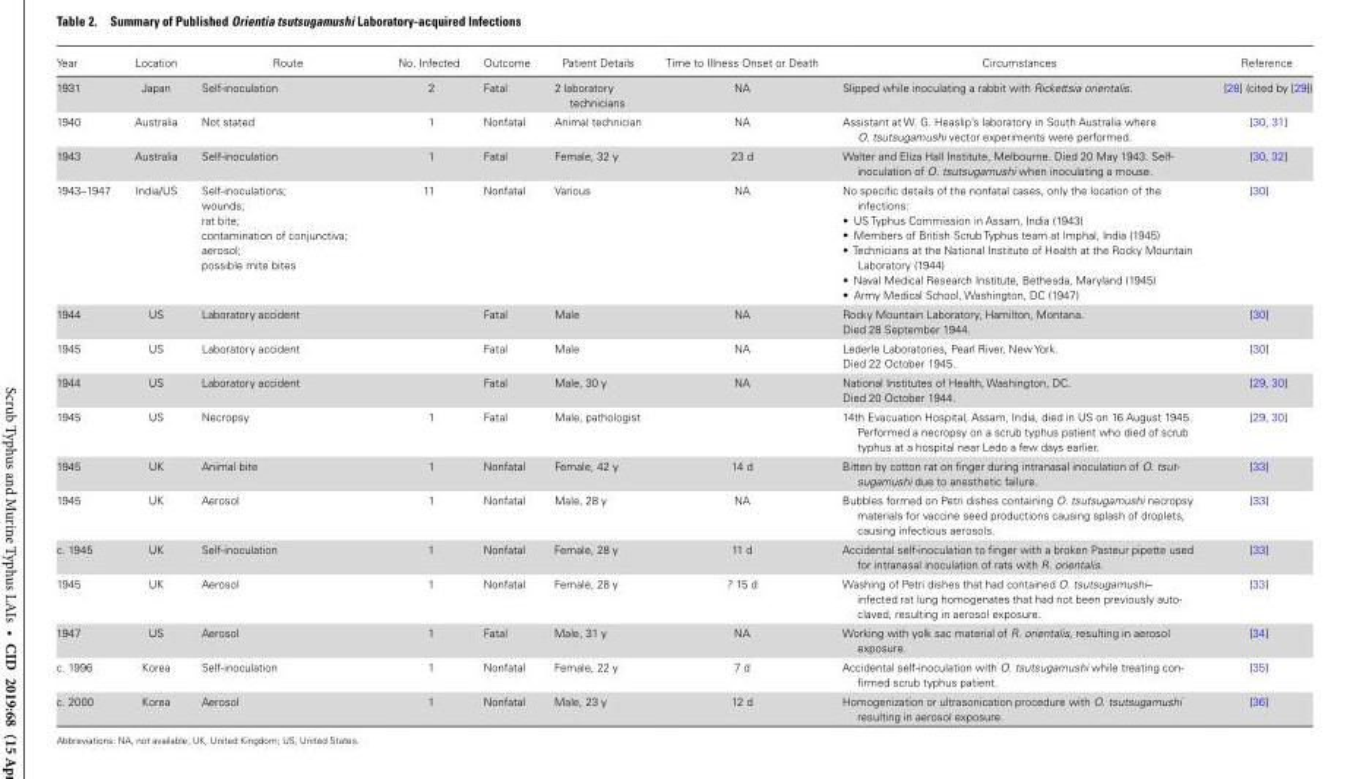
<table><thead><tr><td>Year</td><td>Location</td><td>Route</td><td>No. Infected</td><td>Outcome</td><td>Patient Details</td><td>Time to Illness Onset or Death</td><td>Circumstances</td><td>Reference</td></tr></thead><tbody><tr><td>1931</td><td>Japan</td><td>Self-inoculation</td><td>2</td><td>Fatal</td><td>2 laboratory technicians</td><td>NA</td><td>Slipped while inoculating a rabbit with Rickettsia orientalis.</td><td>[28] (cited by [29])</td></tr><tr><td>1940</td><td>Australia</td><td>Not stated</td><td>1</td><td>Nonfatal</td><td>Animal technician</td><td>NA</td><td>Assistant at W. G. Heaslip’s laboratory in South Australia where O. tsutsugamushi vector experiments were performed.</td><td>[30, 31]</td></tr><tr><td>1943</td><td>Australia</td><td>Self-inoculation</td><td>1</td><td>Fatal</td><td>Female, 32 y</td><td>23 d</td><td>Walter and Eliza Hall Institute, Melbourne. Died 20 May 1943. Self- inoculation of O. tsutsugamushi when inoculating a mouse.</td><td>[30, 32]</td></tr><tr><td>1943–1947</td><td>India/US</td><td>Self-inoculations; wounds; rat bite; contamination of conjunctiva; aerosol; possible mite bites</td><td>11</td><td>Nonfatal</td><td>Various</td><td>NA</td><td>No specific details of the nonfatal cases, only the location of the infections: • US Typhus Commission in Assam, India (1943) • Members of British Scrub Typhus team at Imphal, India (1945) • Technicians at the National Institute of Health at the Rocky Mountain Laboratory (1944) • Naval Medical Research Institute, Bethesda, Maryland (1945) • Army Medical School, Washington, DC (1947)</td><td>[30]</td></tr><tr><td>1944</td><td>US</td><td>Laboratory accident</td><td></td><td>Fatal</td><td>Male</td><td>NA</td><td>Rocky Mountain Laboratory, Hamilton, Montana. Died 28 September 1944.</td><td>[30]</td></tr><tr><td>1945</td><td>US</td><td>Laboratory accident</td><td></td><td>Fatal</td><td>Male</td><td>NA</td><td>Lederle Laboratories, Pearl River, New York. Died 22 October 1945.</td><td>[30]</td></tr><tr><td>1944</td><td>US</td><td>Laboratory accident</td><td></td><td>Fatal</td><td>Male, 30 y</td><td>NA</td><td>National Institutes of Health, Washington, DC. Died 20 October 1944.</td><td>[29, 30]</td></tr><tr><td>1945</td><td>US</td><td>Necropsy</td><td>1</td><td>Fatal</td><td>Male, pathologist</td><td></td><td>14th Evacuation Hospital, Assam, India, died in US on 16 August 1945. Performed a necropsy on a scrub typhus patient who died of scrub typhus at a hospital near Ledo a few days earlier.</td><td>[29, 30]</td></tr><tr><td>1945</td><td>UK</td><td>Animal bite</td><td>1</td><td>Nonfatal</td><td>Female, 42 y</td><td>14 d</td><td>Bitten by cotton rat on finger during intranasal inoculation of O. tsut- sugamushi due to anesthetic failure.</td><td>[33]</td></tr><tr><td>1945</td><td>UK</td><td>Aerosol</td><td>1</td><td>Nonfatal</td><td>Male, 28 y</td><td>NA</td><td>Bubbles formed on Petri dishes containing O. tsutsugamushi necropsy materials for vaccine seed productions causing splash of droplets, causing infectious aerosols.</td><td>[33]</td></tr><tr><td>c. 1945</td><td>UK</td><td>Self-inoculation</td><td>1</td><td>Nonfatal</td><td>Female, 28 y</td><td>11 d</td><td>Accidental self-inoculation to finger with a broken Pasteur pipette used for intranasal inoculation of rats with R. orientalis.</td><td>[33]</td></tr><tr><td>1945</td><td>UK</td><td>Aerosol</td><td>1</td><td>Nonfatal</td><td>Female, 28 y</td><td>? 15 d</td><td>Washing of Petri dishes that had contained O. tsutsugamushi– infected rat lung homogenates that had not been previously auto- claved, resulting in aerosol exposure.</td><td>[33]</td></tr><tr><td>1947</td><td>US</td><td>Aerosol</td><td>1</td><td>Fatal</td><td>Male, 31 y</td><td>NA</td><td>Working with yolk sac material of R. orientalis, resulting in aerosol exposure.</td><td>[34]</td></tr><tr><td>c. 1996</td><td>Korea</td><td>Self-inoculation</td><td>1</td><td>Nonfatal</td><td>Female, 22 y</td><td>7 d</td><td>Accidental self-inoculation with O. tsutsugamushi while treating con- firmed scrub typhus patient.</td><td>[35]</td></tr><tr><td>c. 2000</td><td>Korea</td><td>Aerosol</td><td>1</td><td>Nonfatal</td><td>Male, 23 y</td><td>12 d</td><td>Homogenization or ultrasonication procedure with O. tsutsugamushi resulting in aerosol exposure.</td><td>[36]</td></tr></tbody></table>